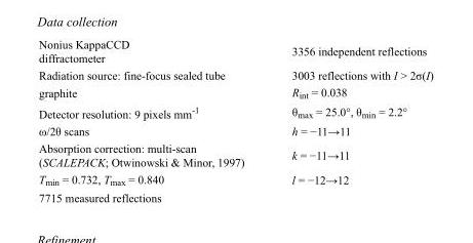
<table><tbody><tr><td>Nonius KappaCCD diffractometer</td><td>3356 independent reflections</td></tr><tr><td>Radiation source: fine-focus sealed tube</td><td>3003 reflections with I &gt; 2σ(I)</td></tr><tr><td>graphite</td><td>R<sub>int</sub> = 0.038</td></tr><tr><td>Detector resolution: 9 pixels mm<sup>-1</sup></td><td>θ<sub>max</sub> = 25.0°, θ<sub>min</sub> = 2.2°</td></tr><tr><td>ω/2θ scans</td><td>h = −11→11</td></tr><tr><td>Absorption correction: multi-scan (SCALEPACK; Otwinowski &amp; Minor, 1997)</td><td>k = −11→11</td></tr><tr><td>T<sub>min</sub> = 0.732, T<sub>max</sub> = 0.840</td><td>l = −12→12</td></tr><tr><td>7715 measured reflections</td><td></td></tr></tbody></table>